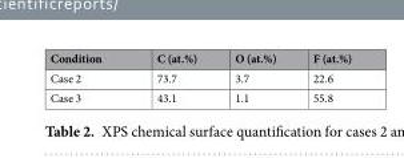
<table><thead><tr><td>Condition</td><td>C (at.%)</td><td>O (at.%)</td><td>F (at.%)</td></tr></thead><tbody><tr><td>Case 2</td><td>73.7</td><td>3.7</td><td>22.6</td></tr><tr><td>Case 3</td><td>43.1</td><td>1.1</td><td>55.8</td></tr></tbody></table>